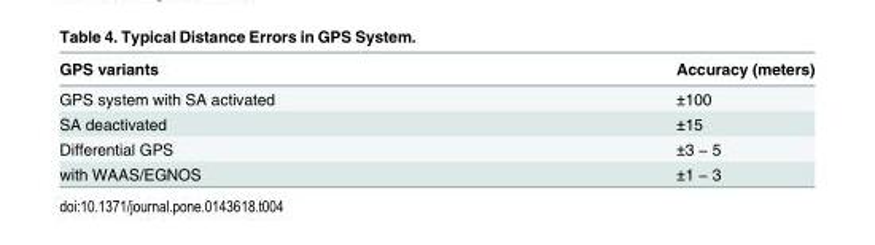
<table><thead><tr><td>GPS variants</td><td>Accuracy (meters)</td></tr></thead><tbody><tr><td>GPS system with SA activated</td><td>±100</td></tr><tr><td>SA deactivated</td><td>±15</td></tr><tr><td>Differential GPS</td><td>±3 − 5</td></tr><tr><td>with WAAS/EGNOS</td><td>±1 − 3</td></tr></tbody></table>